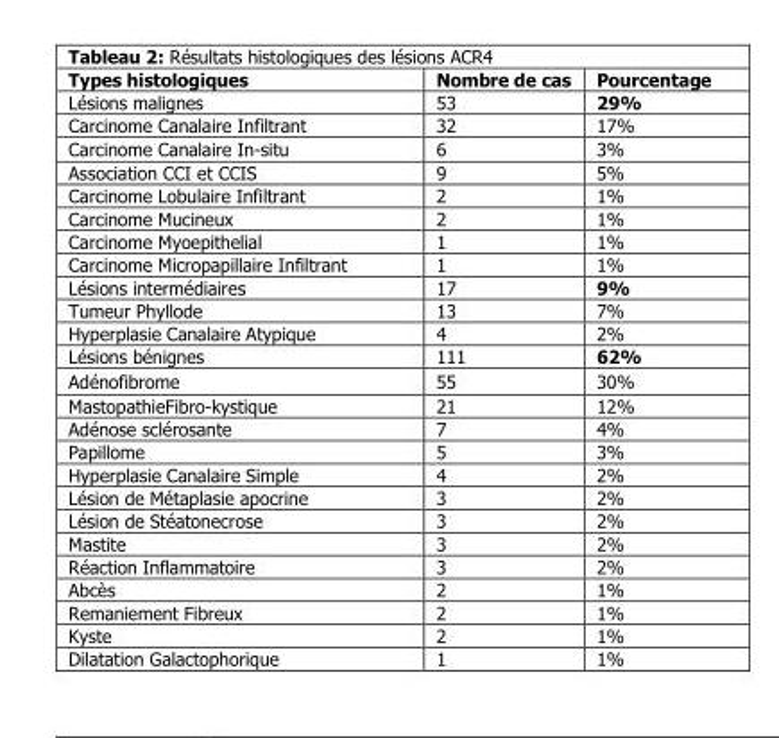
<table><thead><tr><td>Types histologiques</td><td>Nombre de cas</td><td>Pourcentage</td></tr></thead><tbody><tr><td>Lésions malignes</td><td>53</td><td>29%</td></tr><tr><td>Carcinome Canalaire Infiltrant</td><td>32</td><td>17%</td></tr><tr><td>Carcinome Canalaire In-situ</td><td>6</td><td>3%</td></tr><tr><td>Association CCI et CCIS</td><td>9</td><td>5%</td></tr><tr><td>Carcinome Lobulaire Infiltrant</td><td>2</td><td>1%</td></tr><tr><td>Carcinome Mucineux</td><td>2</td><td>1%</td></tr><tr><td>Carcinome Myoepithelial</td><td>1</td><td>1%</td></tr><tr><td>Carcinome Micropapillaire Infiltrant</td><td>1</td><td>1%</td></tr><tr><td>Lésions intermédiaires</td><td>17</td><td>9%</td></tr><tr><td>Tumeur Phyllode</td><td>13</td><td>7%</td></tr><tr><td>Hyperplasie Canalaire Atypique</td><td>4</td><td>2%</td></tr><tr><td>Lésions bénignes</td><td>111</td><td>62%</td></tr><tr><td>Adénofibrome</td><td>55</td><td>30%</td></tr><tr><td>MastopathieFibro-kystique</td><td>21</td><td>12%</td></tr><tr><td>Adénose sclérosante</td><td>7</td><td>4%</td></tr><tr><td>Papillome</td><td>5</td><td>3%</td></tr><tr><td>Hyperplasie Canalaire Simple</td><td>4</td><td>2%</td></tr><tr><td>Lésion de Métaplasie apocrine</td><td>3</td><td>2%</td></tr><tr><td>Lésion de Stéatonecrose</td><td>3</td><td>2%</td></tr><tr><td>Mastite</td><td>3</td><td>2%</td></tr><tr><td>Réaction Inflammatoire</td><td>3</td><td>2%</td></tr><tr><td>Abcès</td><td>2</td><td>1%</td></tr><tr><td>Remaniement Fibreux</td><td>2</td><td>1%</td></tr><tr><td>Kyste</td><td>2</td><td>1%</td></tr><tr><td>Dilatation Galactophorique</td><td>1</td><td>1%</td></tr></tbody></table>